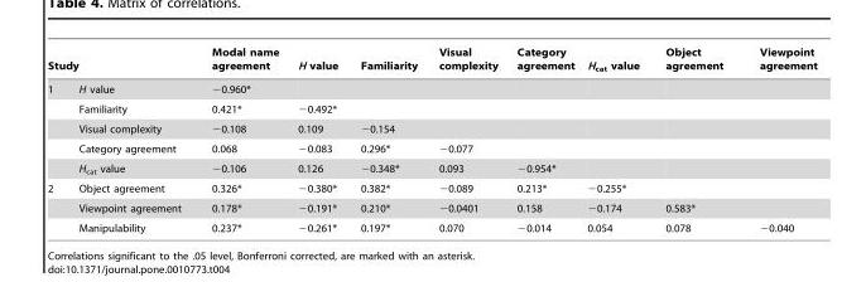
<table><thead><tr><td colspan="2">Study</td><td rowspan="2">Modal name agreement −0.960*</td><td rowspan="2">H value</td><td rowspan="2">Familiarity</td><td rowspan="2">Visual complexity</td><td rowspan="2">Category agreement</td><td rowspan="2">H<sub>cat</sub> value</td><td rowspan="2">Object agreement</td><td rowspan="2">Viewpoint agreement</td></tr><tr><td>1</td><td>H value</td></tr></thead><tbody><tr><td></td><td>Familiarity</td><td>0.421*</td><td>−0.492*</td><td></td><td></td><td></td><td></td><td></td><td></td></tr><tr><td></td><td>Visual complexity</td><td>−0.108</td><td>0.109</td><td>−0.154</td><td></td><td></td><td></td><td></td><td></td></tr><tr><td></td><td>Category agreement</td><td>0.068</td><td>−0.083</td><td>0.296*</td><td>−0.077</td><td></td><td></td><td></td><td></td></tr><tr><td></td><td>H<sub>cat</sub> value</td><td>−0.106</td><td>0.126</td><td>−0.348*</td><td>0.093</td><td>−0.954*</td><td></td><td></td><td></td></tr><tr><td rowspan="3">2</td><td>Object agreement</td><td>0.326*</td><td>−0.380*</td><td>0.382*</td><td>−0.089</td><td>0.213*</td><td>−0.255*</td><td></td><td></td></tr><tr><td>Viewpoint agreement</td><td>0.178*</td><td>−0.191*</td><td>0.210*</td><td>−0.0401</td><td>0.158</td><td>−0.174</td><td>0.583*</td><td></td></tr><tr><td>Manipulability</td><td>0.237*</td><td>−0.261*</td><td>0.197*</td><td>0.070</td><td>−0.014</td><td>0.054</td><td>0.078</td><td>−0.040</td></tr></tbody></table>